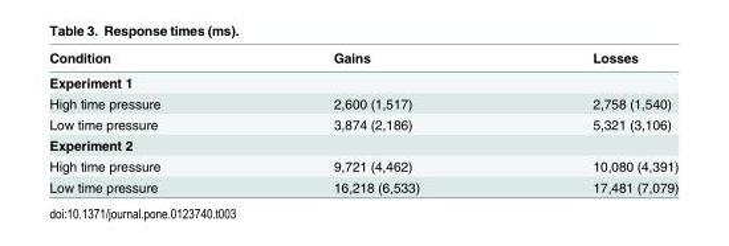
<table><thead><tr><td>Condition</td><td>Gains</td><td>Losses</td></tr></thead><tbody><tr><td colspan="3">Experiment 1</td></tr><tr><td>High time pressure</td><td>2,600 (1,517)</td><td>2,758 (1,540)</td></tr><tr><td>Low time pressure</td><td>3,874 (2,186)</td><td>5,321 (3,106)</td></tr><tr><td colspan="3">Experiment 2</td></tr><tr><td>High time pressure</td><td>9,721 (4,462)</td><td>10,080 (4,391)</td></tr><tr><td>Low time pressure</td><td>16,218 (6,533)</td><td>17,481 (7,079)</td></tr></tbody></table>